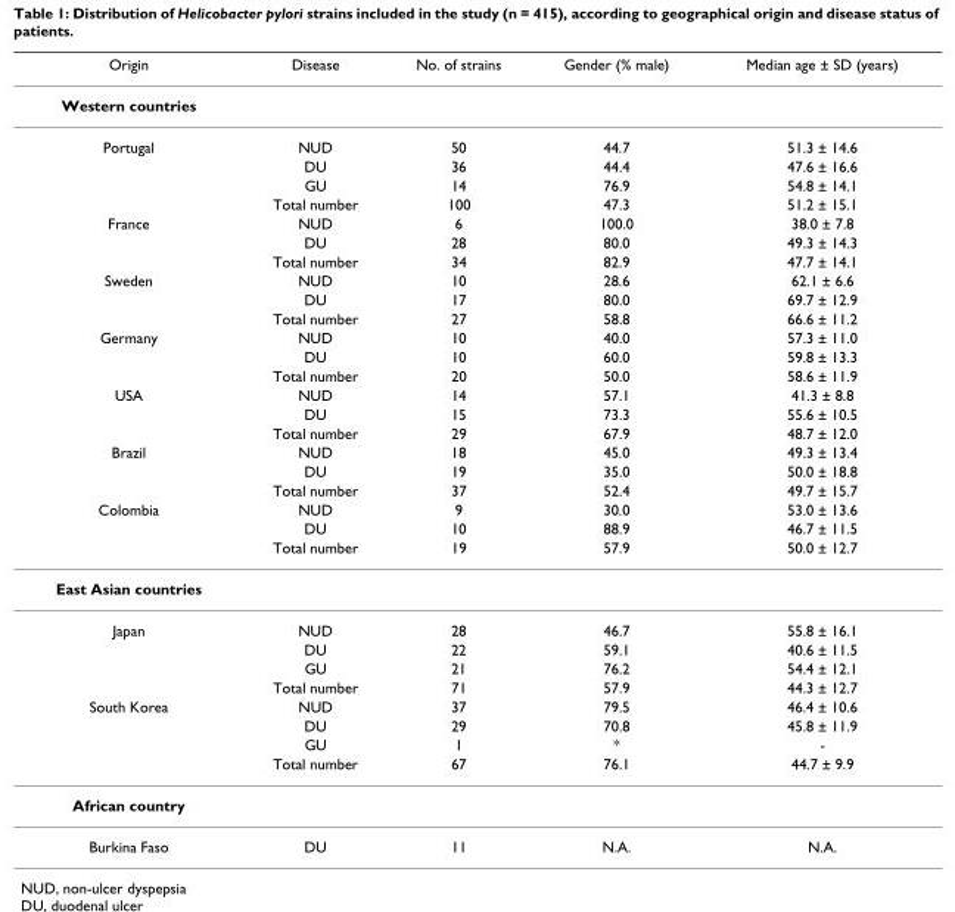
<table><thead><tr><td>Origin</td><td>Disease</td><td>No. of strains</td><td>Gender (% male)</td><td>Median age ± SD (years)</td></tr></thead><tbody><tr><td colspan="5">Western countries</td></tr><tr><td rowspan="4">Portugal</td><td>NUD</td><td>50</td><td>44.7</td><td>51.3 ± 14.6</td></tr><tr><td>DU</td><td>36</td><td>44.4</td><td>47.6 ± 16.6</td></tr><tr><td>GU</td><td>14</td><td>76.9</td><td>54.8 ± 14.1</td></tr><tr><td>Total number</td><td>100</td><td>47.3</td><td>51.2 ± 15.1</td></tr><tr><td rowspan="3">France</td><td>NUD</td><td>6</td><td>100.0</td><td>38.0 ± 7.8</td></tr><tr><td>DU</td><td>28</td><td>80.0</td><td>49.3 ± 14.3</td></tr><tr><td>Total number</td><td>34</td><td>82.9</td><td>47.7 ± 14.1</td></tr><tr><td rowspan="3">Sweden</td><td>NUD</td><td>10</td><td>28.6</td><td>62.1 ± 6.6</td></tr><tr><td>DU</td><td>17</td><td>80.0</td><td>69.7 ± 12.9</td></tr><tr><td>Total number</td><td>27</td><td>58.8</td><td>66.6 ± 11.2</td></tr><tr><td rowspan="3">Germany</td><td>NUD</td><td>10</td><td>40.0</td><td>57.3 ± 11.0</td></tr><tr><td>DU</td><td>10</td><td>60.0</td><td>59.8 ± 13.3</td></tr><tr><td>Total number</td><td>20</td><td>50.0</td><td>58.6 ± 11.9</td></tr><tr><td rowspan="3">USA</td><td>NUD</td><td>14</td><td>57.1</td><td>41.3 ± 8.8</td></tr><tr><td>DU</td><td>15</td><td>73.3</td><td>55.6 ± 10.5</td></tr><tr><td>Total number</td><td>29</td><td>67.9</td><td>48.7 ± 12.0</td></tr><tr><td rowspan="3">Brazil</td><td>NUD</td><td>18</td><td>45.0</td><td>49.3 ± 13.4</td></tr><tr><td>DU</td><td>19</td><td>35.0</td><td>50.0 ± 18.8</td></tr><tr><td>Total number</td><td>37</td><td>52.4</td><td>49.7 ± 15.7</td></tr><tr><td rowspan="3">Colombia</td><td>NUD</td><td>9</td><td>30.0</td><td>53.0 ± 13.6</td></tr><tr><td>DU</td><td>10</td><td>88.9</td><td>46.7 ± 11.5</td></tr><tr><td>Total number</td><td>19</td><td>57.9</td><td>50.0 ± 12.7</td></tr><tr><td colspan="5">East Asian countries</td></tr><tr><td rowspan="4">Japan</td><td>NUD</td><td>28</td><td>46.7</td><td>55.8 ± 16.1</td></tr><tr><td>DU</td><td>22</td><td>59.1</td><td>40.6 ± 11.5</td></tr><tr><td>GU</td><td>21</td><td>76.2</td><td>54.4 ± 12.1</td></tr><tr><td>Total number</td><td>71</td><td>57.9</td><td>44.3 ± 12.7</td></tr><tr><td rowspan="4">South Korea</td><td>NUD</td><td>37</td><td>79.5</td><td>46.4 ± 10.6</td></tr><tr><td>DU</td><td>29</td><td>70.8</td><td>45.8 ± 11.9</td></tr><tr><td>GU</td><td>1</td><td>*</td><td>-</td></tr><tr><td>Total number</td><td>67</td><td>76.1</td><td>44.7 ± 9.9</td></tr><tr><td colspan="5">African country</td></tr><tr><td>Burkina Faso</td><td>DU</td><td>11</td><td>N.A.</td><td>N.A.</td></tr></tbody></table>